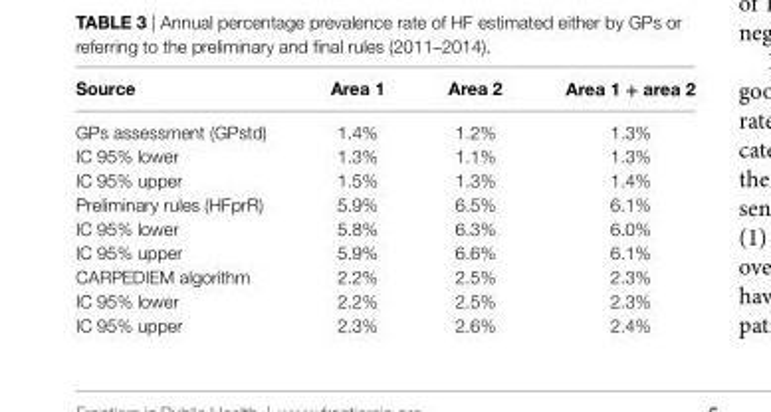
<table><thead><tr><td>source</td><td>area 1</td><td>area 2</td><td>area 1 + area 2</td></tr></thead><tbody><tr><td>GPs assessment (GPstd)</td><td>1.4%</td><td>1.2%</td><td>1.3%</td></tr><tr><td>IC 95% lower</td><td>1.3%</td><td>1.1%</td><td>1.3%</td></tr><tr><td>IC 95% upper</td><td>1.5%</td><td>1.3%</td><td>1.4%</td></tr><tr><td>Preliminary rules (HFprR)</td><td>5.9%</td><td>6.5%</td><td>6.1%</td></tr><tr><td>IC 95% lower</td><td>5.8%</td><td>6.3%</td><td>6.0%</td></tr><tr><td>IC 95% upper</td><td>5.9%</td><td>6.6%</td><td>6.1%</td></tr><tr><td>CARPEDIEM algorithm</td><td>2.2%</td><td>2.5%</td><td>2.3%</td></tr><tr><td>IC 95% lower</td><td>2.2%</td><td>2.5%</td><td>2.3%</td></tr><tr><td>IC 95% upper</td><td>2.3%</td><td>2.6%</td><td>2.4%</td></tr></tbody></table>